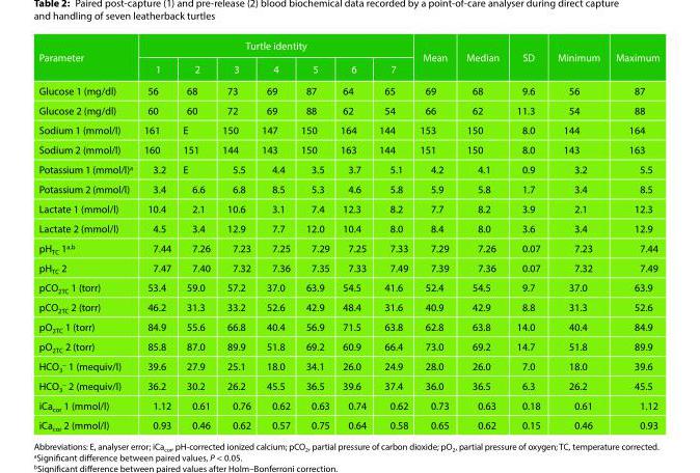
<table><thead><tr><td rowspan="2">Parameter</td><td colspan="7">Turtle identity</td><td rowspan="2">Mean</td><td rowspan="2">Median</td><td rowspan="2">SD</td><td rowspan="2">Minimum</td><td rowspan="2">Maximum</td></tr><tr><td>1</td><td>2</td><td>3</td><td>4</td><td>5</td><td>6</td><td>7</td></tr></thead><tbody><tr><td>Glucose 1 (mg/dl)</td><td>56</td><td>68</td><td>73</td><td>69</td><td>87</td><td>64</td><td>65</td><td>69</td><td>68</td><td>9.6</td><td>56</td><td>87</td></tr><tr><td>Glucose 2 (mg/dl)</td><td>60</td><td>60</td><td>72</td><td>69</td><td>88</td><td>62</td><td>54</td><td>66</td><td>62</td><td>11.3</td><td>54</td><td>88</td></tr><tr><td>Sodium 1 (mmol/l)</td><td>161</td><td>E</td><td>150</td><td>147</td><td>150</td><td>164</td><td>144</td><td>153</td><td>150</td><td>8.0</td><td>144</td><td>164</td></tr><tr><td>Sodium 2 (mmol/l)</td><td>160</td><td>151</td><td>144</td><td>143</td><td>150</td><td>163</td><td>144</td><td>151</td><td>150</td><td>8.0</td><td>143</td><td>163</td></tr><tr><td>Potassium 1 (mmol/l)<sup>a</sup></td><td>3.2</td><td>E</td><td>5.5</td><td>4.4</td><td>3.5</td><td>3.7</td><td>5.1</td><td>4.2</td><td>4.1</td><td>0.9</td><td>3.2</td><td>5.5</td></tr><tr><td>Potassium 2 (mmol/l)</td><td>3.4</td><td>6.6</td><td>6.8</td><td>8.5</td><td>5.3</td><td>4.6</td><td>5.8</td><td>5.9</td><td>5.8</td><td>1.7</td><td>3.4</td><td>8.5</td></tr><tr><td>Lactate 1 (mmol/l)</td><td>10.4</td><td>2.1</td><td>10.6</td><td>3.1</td><td>7.4</td><td>12.3</td><td>8.2</td><td>7.7</td><td>8.2</td><td>3.9</td><td>2.1</td><td>12.3</td></tr><tr><td>Lactate 2 (mmol/l)</td><td>4.5</td><td>3.4</td><td>12.9</td><td>7.7</td><td>12.0</td><td>10.4</td><td>8.0</td><td>8.4</td><td>8.0</td><td>3.6</td><td>3.4</td><td>12.9</td></tr><tr><td>pH<sub>TC</sub> 1<sup>a,b</sup></td><td>7.44</td><td>7.26</td><td>7.23</td><td>7.25</td><td>7.29</td><td>7.25</td><td>7.33</td><td>7.29</td><td>7.26</td><td>0.07</td><td>7.23</td><td>7.44</td></tr><tr><td>pH<sub>TC</sub> 2</td><td>7.47</td><td>7.40</td><td>7.32</td><td>7.36</td><td>7.35</td><td>7.33</td><td>7.49</td><td>7.39</td><td>7.36</td><td>0.07</td><td>7.32</td><td>7.49</td></tr><tr><td>pCO<sub>2TC</sub> 1 (torr)</td><td>53.4</td><td>59.0</td><td>57.2</td><td>37.0</td><td>63.9</td><td>54.5</td><td>41.6</td><td>52.4</td><td>54.5</td><td>9.7</td><td>37.0</td><td>63.9</td></tr><tr><td>pCO<sub>2TC</sub> 2 (torr)</td><td>46.2</td><td>31.3</td><td>33.2</td><td>52.6</td><td>42.9</td><td>48.4</td><td>31.6</td><td>40.9</td><td>42.9</td><td>8.8</td><td>31.3</td><td>52.6</td></tr><tr><td>pO<sub>2TC</sub> 1 (torr)</td><td>84.9</td><td>55.6</td><td>66.8</td><td>40.4</td><td>56.9</td><td>71.5</td><td>63.8</td><td>62.8</td><td>63.8</td><td>14.0</td><td>40.4</td><td>84.9</td></tr><tr><td>pO<sub>2TC</sub> 2 (torr)</td><td>85.8</td><td>87.0</td><td>89.9</td><td>51.8</td><td>69.2</td><td>60.9</td><td>66.4</td><td>73.0</td><td>69.2</td><td>14.7</td><td>51.8</td><td>89.9</td></tr><tr><td>HCO<sub>3</sub><sup>−</sup> 1 (mequiv/l)</td><td>39.6</td><td>27.9</td><td>25.1</td><td>18.0</td><td>34.1</td><td>26.0</td><td>24.9</td><td>28.0</td><td>26.0</td><td>7.0</td><td>18.0</td><td>39.6</td></tr><tr><td>HCO<sub>3</sub><sup>−</sup> 2 (mequiv/l)</td><td>36.2</td><td>30.2</td><td>26.2</td><td>45.5</td><td>36.5</td><td>39.6</td><td>37.4</td><td>36.0</td><td>36.5</td><td>6.3</td><td>26.2</td><td>45.5</td></tr><tr><td>iCa<sub>cor</sub> 1 (mmol/l)</td><td>1.12</td><td>0.61</td><td>0.76</td><td>0.62</td><td>0.63</td><td>0.74</td><td>0.62</td><td>0.73</td><td>0.63</td><td>0.18</td><td>0.61</td><td>1.12</td></tr><tr><td>iCa<sub>cor</sub> 2 (mmol/l)</td><td>0.93</td><td>0.46</td><td>0.62</td><td>0.57</td><td>0.75</td><td>0.64</td><td>0.58</td><td>0.65</td><td>0.62</td><td>0.15</td><td>0.46</td><td>0.93</td></tr></tbody></table>